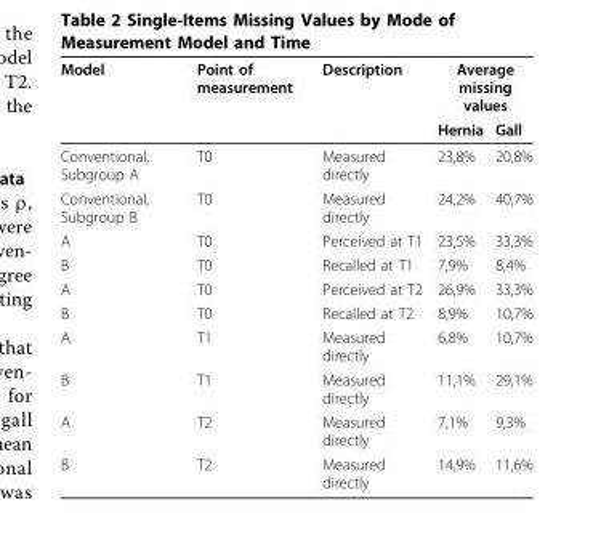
<table><thead><tr><td rowspan="2">Model</td><td rowspan="2">Point of measurement</td><td rowspan="2">Description</td><td colspan="2">Average missing values</td></tr><tr><td>Hernia</td><td>Gall</td></tr></thead><tbody><tr><td>Conventional, Subgroup A</td><td>T0</td><td>Measured directly</td><td>23,8%</td><td>20,8%</td></tr><tr><td>Conventional, Subgroup B</td><td>T0</td><td>Measured directly</td><td>24,2%</td><td>40,7%</td></tr><tr><td>A</td><td>T0</td><td>Perceived at T1</td><td>23,5%</td><td>33,3%</td></tr><tr><td>B</td><td>T0</td><td>Recalled at T1</td><td>7,9%</td><td>8,4%</td></tr><tr><td>A</td><td>T0</td><td>Perceived at T2</td><td>26,9%</td><td>33,3%</td></tr><tr><td>B</td><td>T0</td><td>Recalled at T2</td><td>8,9%</td><td>10,7%</td></tr><tr><td>A</td><td>T1</td><td>Measured directly</td><td>6,8%</td><td>10,7%</td></tr><tr><td>B</td><td>T1</td><td>Measured directly</td><td>11,1%</td><td>29,1%</td></tr><tr><td>A</td><td>T2</td><td>Measured directly</td><td>7,1%</td><td>9,3%</td></tr><tr><td>B</td><td>T2</td><td>Measured directly</td><td>14,9%</td><td>11,6%</td></tr></tbody></table>